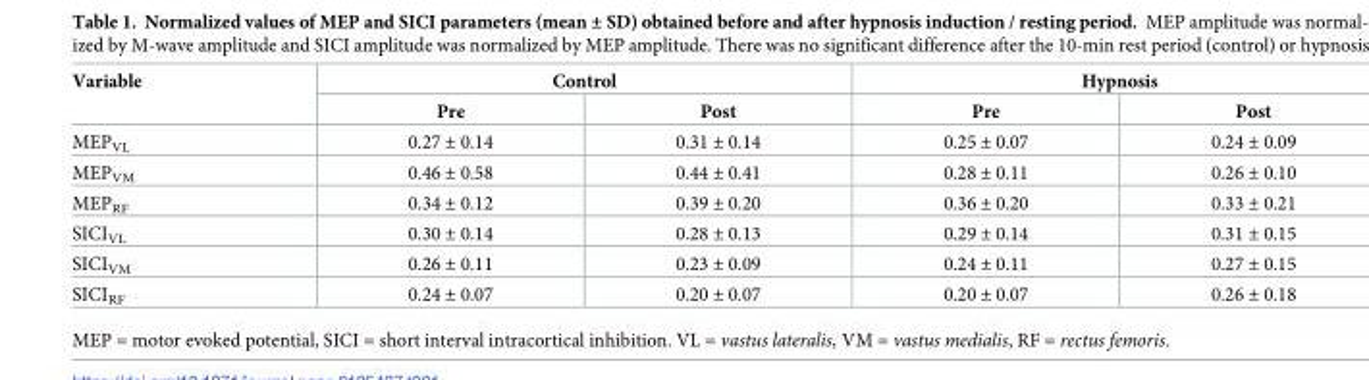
<table><thead><tr><td rowspan="2">Variable</td><td colspan="2">Control</td><td colspan="2">Hypnosis</td></tr><tr><td>Pre</td><td>Post</td><td>Pre</td><td>Post</td></tr></thead><tbody><tr><td>MEP<sub>VL</sub></td><td>0.27 ± 0.14</td><td>0.31 ± 0.14</td><td>0.25 ± 0.07</td><td>0.24 ± 0.09</td></tr><tr><td>MEP<sub>VM</sub></td><td>0.46 ± 0.58</td><td>0.44 ± 0.41</td><td>0.28 ± 0.11</td><td>0.26 ± 0.10</td></tr><tr><td>MEP<sub>RF</sub></td><td>0.34 ± 0.12</td><td>0.39 ± 0.20</td><td>0.36 ± 0.20</td><td>0.33 ± 0.21</td></tr><tr><td>SICI<sub>VL</sub></td><td>0.30 ± 0.14</td><td>0.28 ± 0.13</td><td>0.29 ± 0.14</td><td>0.31 ± 0.15</td></tr><tr><td>SICI<sub>VM</sub></td><td>0.26 ± 0.11</td><td>0.23 ± 0.09</td><td>0.24 ± 0.11</td><td>0.27 ± 0.15</td></tr><tr><td>SICI<sub>RF</sub></td><td>0.24 ± 0.07</td><td>0.20 ± 0.07</td><td>0.20 ± 0.07</td><td>0.26 ± 0.18</td></tr></tbody></table>